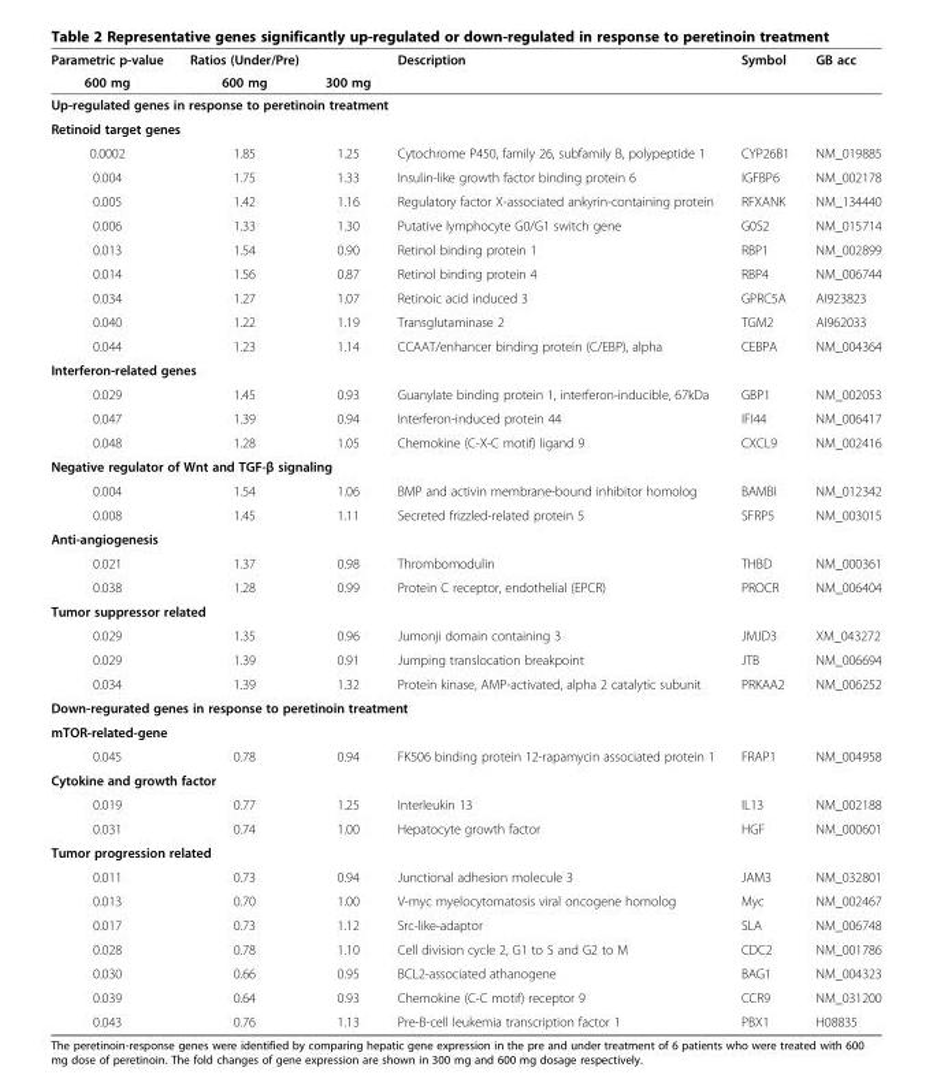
<table><thead><tr><td rowspan="2">Parametric p-value 600 mg</td><td rowspan="2">Ratios (Under/Pre) 600 mg</td><td rowspan="2">300 mg</td><td rowspan="2">Description</td><td rowspan="2">Symbol</td><td rowspan="2">GB acc</td></tr><tr></tr></thead><tbody><tr><td colspan="6">Up-regulated genes in response to peretinoin treatment</td></tr><tr><td colspan="6">Retinoid target genes</td></tr><tr><td>0.0002</td><td>1.85</td><td>1.25</td><td>Cytochrome P450, family 26, subfamily B, polypeptide 1</td><td>CYP26B1</td><td>NM_019885</td></tr><tr><td>0.004</td><td>1.75</td><td>1.33</td><td>Insulin-like growth factor binding protein 6</td><td>IGFBP6</td><td>NM_002178</td></tr><tr><td>0.005</td><td>1.42</td><td>1.16</td><td>Regulatory factor X-associated ankyrin-containing protein</td><td>RFXANK</td><td>NM_134440</td></tr><tr><td>0.006</td><td>1.33</td><td>1.30</td><td>Putative lymphocyte G0/G1 switch gene</td><td>G0S2</td><td>NM_015714</td></tr><tr><td>0.013</td><td>1.54</td><td>0.90</td><td>Retinol binding protein 1</td><td>RBP1</td><td>NM_002899</td></tr><tr><td>0.014</td><td>1.56</td><td>0.87</td><td>Retinol binding protein 4</td><td>RBP4</td><td>NM_006744</td></tr><tr><td>0.034</td><td>1.27</td><td>1.07</td><td>Retinoic acid induced 3</td><td>GPRC5A</td><td>AI923823</td></tr><tr><td>0.040</td><td>1.22</td><td>1.19</td><td>Transglutaminase 2</td><td>TGM2</td><td>AI962033</td></tr><tr><td>0.044</td><td>1.23</td><td>1.14</td><td>CCAAT/enhancer binding protein (C/EBP), alpha</td><td>CEBPA</td><td>NM_004364</td></tr><tr><td colspan="6">Interferon-related genes</td></tr><tr><td>0.029</td><td>1.45</td><td>0.93</td><td>Guanylate binding protein 1, interferon-inducible, 67kDa</td><td>GBP1</td><td>NM_002053</td></tr><tr><td>0.047</td><td>1.39</td><td>0.94</td><td>Interferon-induced protein 44</td><td>IFI44</td><td>NM_006417</td></tr><tr><td>0.048</td><td>1.28</td><td>1.05</td><td>Chemokine (C-X-C motif) ligand 9</td><td>CXCL9</td><td>NM_002416</td></tr><tr><td colspan="6">Negative regulator of Wnt and TGF-β signaling</td></tr><tr><td>0.004</td><td>1.54</td><td>1.06</td><td>BMP and activin membrane-bound inhibitor homolog</td><td>BAMBI</td><td>NM_012342</td></tr><tr><td>0.008</td><td>1.45</td><td>1.11</td><td>Secreted frizzled-related protein 5</td><td>SFRP5</td><td>NM_003015</td></tr><tr><td colspan="6">Anti-angiogenesis</td></tr><tr><td>0.021</td><td>1.37</td><td>0.98</td><td>Thrombomodulin</td><td>THBD</td><td>NM_000361</td></tr><tr><td>0.038</td><td>1.28</td><td>0.99</td><td>Protein C receptor, endothelial (EPCR)</td><td>PROCR</td><td>NM_006404</td></tr><tr><td colspan="6">Tumor suppressor related</td></tr><tr><td>0.029</td><td>1.35</td><td>0.96</td><td>Jumonji domain containing 3</td><td>JMJD3</td><td>XM_043272</td></tr><tr><td>0.029</td><td>1.39</td><td>0.91</td><td>Jumping translocation breakpoint</td><td>JTB</td><td>NM_006694</td></tr><tr><td>0.034</td><td>1.39</td><td>1.32</td><td>Protein kinase, AMP-activated, alpha 2 catalytic subunit</td><td>PRKAA2</td><td>NM_006252</td></tr><tr><td colspan="6">Down-regurated genes in response to peretinoin treatment</td></tr><tr><td colspan="6">mTOR-related-gene</td></tr><tr><td>0.045</td><td>0.78</td><td>0.94</td><td>FK506 binding protein 12-rapamycin associated protein 1</td><td>FRAP1</td><td>NM_004958</td></tr><tr><td colspan="6">Cytokine and growth factor</td></tr><tr><td>0.019</td><td>0.77</td><td>1.25</td><td>Interleukin 13</td><td>IL13</td><td>NM_002188</td></tr><tr><td>0.031</td><td>0.74</td><td>1.00</td><td>Hepatocyte growth factor</td><td>HGF</td><td>NM_000601</td></tr><tr><td colspan="6">Tumor progression related</td></tr><tr><td>0.011</td><td>0.73</td><td>0.94</td><td>Junctional adhesion molecule 3</td><td>JAM3</td><td>NM_032801</td></tr><tr><td>0.013</td><td>0.70</td><td>1.00</td><td>V-myc myelocytomatosis viral oncogene homolog</td><td>Myc</td><td>NM_002467</td></tr><tr><td>0.017</td><td>0.73</td><td>1.12</td><td>Src-like-adaptor</td><td>SLA</td><td>NM_006748</td></tr><tr><td>0.028</td><td>0.78</td><td>1.10</td><td>Cell division cycle 2, G1 to S and G2 to M</td><td>CDC2</td><td>NM_001786</td></tr><tr><td>0.030</td><td>0.66</td><td>0.95</td><td>BCL2-associated athanogene</td><td>BAG1</td><td>NM_004323</td></tr><tr><td>0.039</td><td>0.64</td><td>0.93</td><td>Chemokine (C-C motif) receptor 9</td><td>CCR9</td><td>NM_031200</td></tr><tr><td>0.043</td><td>0.76</td><td>1.13</td><td>Pre-B-cell leukemia transcription factor 1</td><td>PBX1</td><td>H08835</td></tr></tbody></table>